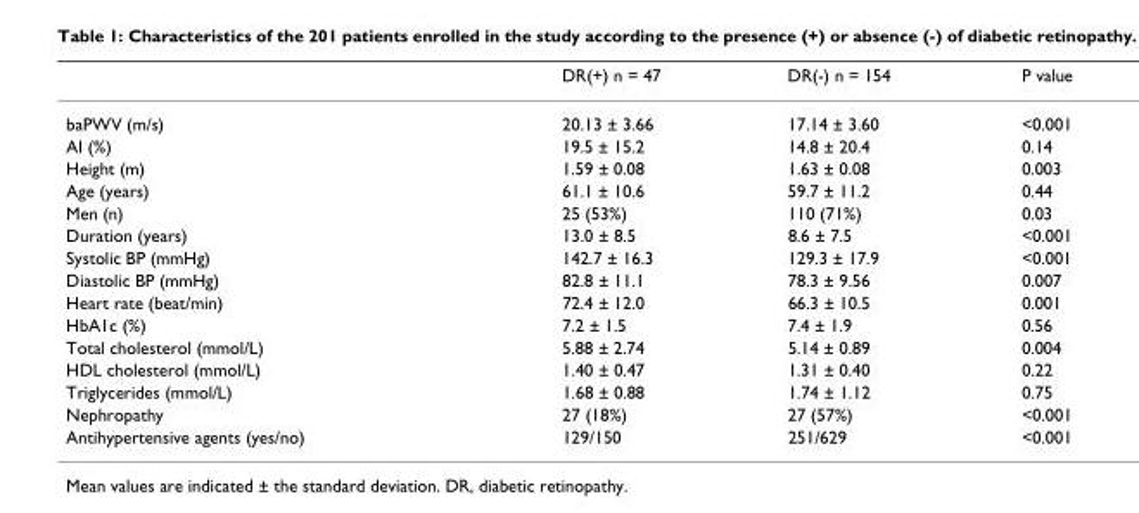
<table><thead><tr><td></td><td>DR(+) n = 47</td><td>DR(-) n = 154</td><td>P value</td></tr></thead><tbody><tr><td>baPWV (m/s)</td><td>20.13 ± 3.66</td><td>17.14 ± 3.60</td><td>&lt;0.001</td></tr><tr><td>AI (%)</td><td>19.5 ± 15.2</td><td>14.8 ± 20.4</td><td>0.14</td></tr><tr><td>Height (m)</td><td>1.59 ± 0.08</td><td>1.63 ± 0.08</td><td>0.003</td></tr><tr><td>Age (years)</td><td>61.1 ± 10.6</td><td>59.7 ± 11.2</td><td>0.44</td></tr><tr><td>Men (n)</td><td>25 (53%)</td><td>110 (71%)</td><td>0.03</td></tr><tr><td>Duration (years)</td><td>13.0 ± 8.5</td><td>8.6 ± 7.5</td><td>&lt;0.001</td></tr><tr><td>Systolic BP (mmHg)</td><td>142.7 ± 16.3</td><td>129.3 ± 17.9</td><td>&lt;0.001</td></tr><tr><td>Diastolic BP (mmHg)</td><td>82.8 ± 11.1</td><td>78.3 ± 9.56</td><td>0.007</td></tr><tr><td>Heart rate (beat/min)</td><td>72.4 ± 12.0</td><td>66.3 ± 10.5</td><td>0.001</td></tr><tr><td>HbA1c (%)</td><td>7.2 ± 1.5</td><td>7.4 ± 1.9</td><td>0.56</td></tr><tr><td>Total cholesterol (mmol/L)</td><td>5.88 ± 2.74</td><td>5.14 ± 0.89</td><td>0.004</td></tr><tr><td>HDL cholesterol (mmol/L)</td><td>1.40 ± 0.47</td><td>1.31 ± 0.40</td><td>0.22</td></tr><tr><td>Triglycerides (mmol/L)</td><td>1.68 ± 0.88</td><td>1.74 ± 1.12</td><td>0.75</td></tr><tr><td>Nephropathy</td><td>27 (18%)</td><td>27 (57%)</td><td>&lt;0.001</td></tr><tr><td>Antihypertensive agents (yes/no)</td><td>129/150</td><td>251/629</td><td>&lt;0.001</td></tr></tbody></table>